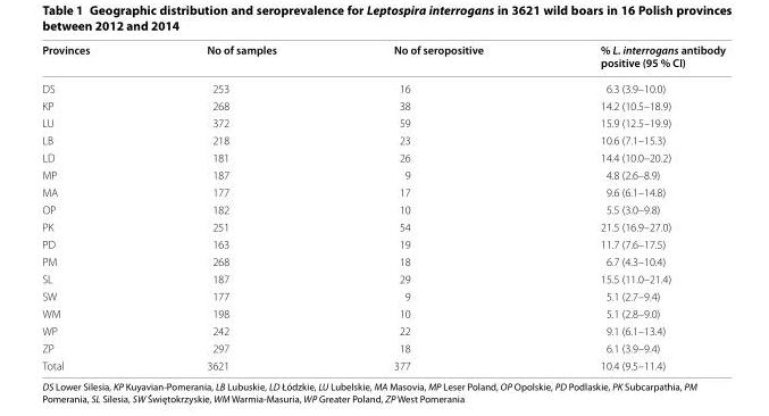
<table><thead><tr><td>Provinces</td><td>No of samples</td><td>No of seropositive</td><td>% L. interrogans antibody positive (95 % CI)</td></tr></thead><tbody><tr><td>DS</td><td>253</td><td>16</td><td>6.3 (3.9–10.0)</td></tr><tr><td>KP</td><td>268</td><td>38</td><td>14.2 (10.5–18.9)</td></tr><tr><td>LU</td><td>372</td><td>59</td><td>15.9 (12.5–19.9)</td></tr><tr><td>LB</td><td>218</td><td>23</td><td>10.6 (7.1–15.3)</td></tr><tr><td>LD</td><td>181</td><td>26</td><td>14.4 (10.0–20.2)</td></tr><tr><td>MP</td><td>187</td><td>9</td><td>4.8 (2.6–8.9)</td></tr><tr><td>MA</td><td>177</td><td>17</td><td>9.6 (6.1–14.8)</td></tr><tr><td>OP</td><td>182</td><td>10</td><td>5.5 (3.0–9.8)</td></tr><tr><td>PK</td><td>251</td><td>54</td><td>21.5 (16.9–27.0)</td></tr><tr><td>PD</td><td>163</td><td>19</td><td>11.7 (7.6–17.5)</td></tr><tr><td>PM</td><td>268</td><td>18</td><td>6.7 (4.3–10.4)</td></tr><tr><td>SL</td><td>187</td><td>29</td><td>15.5 (11.0–21.4)</td></tr><tr><td>SW</td><td>177</td><td>9</td><td>5.1 (2.7–9.4)</td></tr><tr><td>WM</td><td>198</td><td>10</td><td>5.1 (2.8–9.0)</td></tr><tr><td>WP</td><td>242</td><td>22</td><td>9.1 (6.1–13.4)</td></tr><tr><td>ZP</td><td>297</td><td>18</td><td>6.1 (3.9–9.4)</td></tr><tr><td>Total</td><td>3621</td><td>377</td><td>10.4 (9.5–11.4)</td></tr></tbody></table>